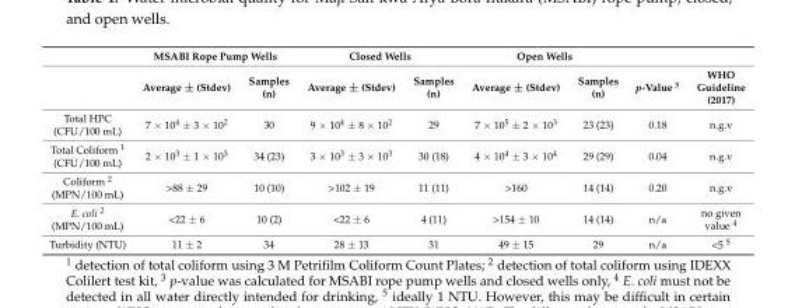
<table><thead><tr><td rowspan="2"></td><td colspan="2">MSABI Rope Pump Wells</td><td colspan="2">Closed Wells</td><td colspan="2">Open Wells</td><td rowspan="2">p-Value <sup>3</sup></td><td rowspan="2">WHO Guideline (2017)</td></tr><tr><td>Average ± (Stdev)</td><td>Samples (n)</td><td>Average ± (Stdev)</td><td>Samples (n)</td><td>Average ± (Stdev)</td><td>Samples (n)</td></tr></thead><tbody><tr><td>Total HPC (CFU/100 mL)</td><td>7 × 10<sup>4</sup> ± 3 × 10<sup>2</sup></td><td>30</td><td>9 × 10<sup>4</sup> ± 8 × 10<sup>2</sup></td><td>29</td><td>7 × 10<sup>5</sup> ± 2 × 10<sup>3</sup></td><td>23 (23)</td><td>0.18</td><td>n.g.v</td></tr><tr><td>Total Coliform <sup>1</sup> (CFU/100 mL)</td><td>2 × 10<sup>3</sup> ± 1 × 10<sup>3</sup></td><td>34 (23)</td><td>3 × 10<sup>3</sup> ± 3 × 10<sup>3</sup></td><td>30 (18)</td><td>4 × 10<sup>4</sup> ± 3 × 10<sup>4</sup></td><td>29 (29)</td><td>0.04</td><td>n.g.v</td></tr><tr><td>Coliform <sup>2</sup> (MPN/100 mL)</td><td>&gt;88 ± 29</td><td>10 (10)</td><td>&gt;102 ± 19</td><td>11 (11)</td><td>&gt;160</td><td>14 (14)</td><td>0.20</td><td>n.g.v</td></tr><tr><td>E. coli <sup>2</sup> (MPN/100 mL)</td><td>&lt;22 ± 6</td><td>10 (2)</td><td>&lt;22 ± 6</td><td>4 (11)</td><td>&gt;154 ± 10</td><td>14 (14)</td><td>n/a</td><td>no given value <sup>4</sup></td></tr><tr><td>Turbidity (NTU)</td><td>11 ± 2</td><td>34</td><td>28 ± 13</td><td>31</td><td>49 ± 15</td><td>29</td><td>n/a</td><td>&lt;5 <sup>5</sup></td></tr></tbody></table>